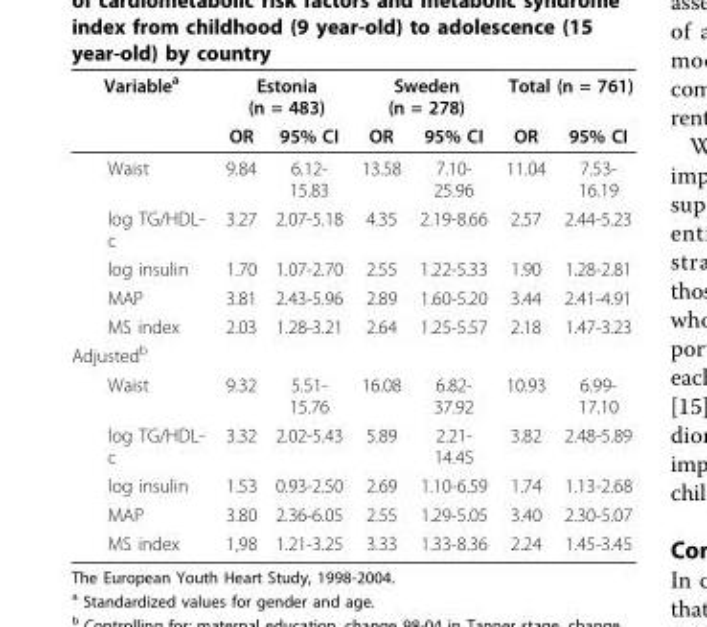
<table><thead><tr><td rowspan="2">Variable<sup>a</sup></td><td colspan="2">Estonia (n = 483)</td><td colspan="2">Sweden (n = 278)</td><td colspan="2">Total (n = 761)</td></tr><tr><td>OR</td><td>95% CI</td><td>OR</td><td>95% CI</td><td>OR</td><td>95% CI</td></tr></thead><tbody><tr><td>Waist</td><td>9.84</td><td>6.12- 15.83</td><td>13.58</td><td>7.10- 25.96</td><td>11.04</td><td>7.53- 16.19</td></tr><tr><td>log TG/HDL- c</td><td>3.27</td><td>2.07-5.18</td><td>4.35</td><td>2.19-8.66</td><td>2.57</td><td>2.44-5.23</td></tr><tr><td>log insulin</td><td>1.70</td><td>1.07-2.70</td><td>2.55</td><td>1.22-5.33</td><td>1.90</td><td>1.28-2.81</td></tr><tr><td>MAP</td><td>3.81</td><td>2.43-5.96</td><td>2.89</td><td>1.60-5.20</td><td>3.44</td><td>2.41-4.91</td></tr><tr><td>MS index</td><td>2.03</td><td>1.28-3.21</td><td>2.64</td><td>1.25-5.57</td><td>2.18</td><td>1.47-3.23</td></tr><tr><td colspan="7">Adjusted<sup>b</sup></td></tr><tr><td>Waist</td><td>9.32</td><td>5.51- 15.76</td><td>16.08</td><td>6.82- 37.92</td><td>10.93</td><td>6.99- 17.10</td></tr><tr><td>log TG/HDL- c</td><td>3.32</td><td>2.02-5.43</td><td>5.89</td><td>2.21- 14.45</td><td>3.82</td><td>2.48-5.89</td></tr><tr><td>log insulin</td><td>1.53</td><td>0.93-2.50</td><td>2.69</td><td>1.10-6.59</td><td>1.74</td><td>1.13-2.68</td></tr><tr><td>MAP</td><td>3.80</td><td>2.36-6.05</td><td>2.55</td><td>1.29-5.05</td><td>3.40</td><td>2.30-5.07</td></tr><tr><td>MS index</td><td>1,98</td><td>1.21-3.25</td><td>3.33</td><td>1.33-8.36</td><td>2.24</td><td>1.45-3.45</td></tr></tbody></table>